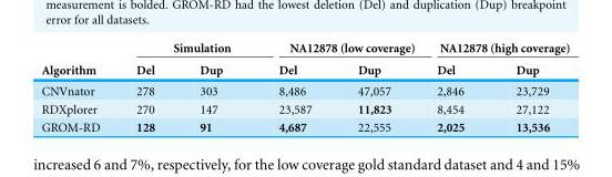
<table><thead><tr><td rowspan="2">Algorithm</td><td colspan="2">Simulation</td><td colspan="2">NA12878 (low coverage)</td><td colspan="2">NA12878 (high coverage)</td></tr><tr><td>Del</td><td>Dup</td><td>Del</td><td>Dup</td><td>Del</td><td>Dup</td></tr></thead><tbody><tr><td>CNVnator</td><td>278</td><td>303</td><td>8,486</td><td>47,057</td><td>2,846</td><td>23,729</td></tr><tr><td>RDXplorer</td><td>270</td><td>147</td><td>23,587</td><td>11,823</td><td>8,454</td><td>27,122</td></tr><tr><td>GROM-RD</td><td>128</td><td>91</td><td>4,687</td><td>22,555</td><td>2,025</td><td>13,536</td></tr></tbody></table>